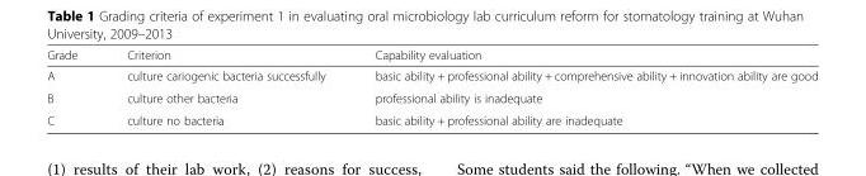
<table><thead><tr><td>Grade</td><td>Criterion</td><td>Capability evaluation</td></tr></thead><tbody><tr><td>A</td><td>culture cariogenic bacteria successfully</td><td>basic ability + professional ability + comprehensive ability + innovation ability are good</td></tr><tr><td>B</td><td>culture other bacteria</td><td>professional ability is inadequate</td></tr><tr><td>C</td><td>culture no bacteria</td><td>basic ability + professional ability are inadequate</td></tr></tbody></table>